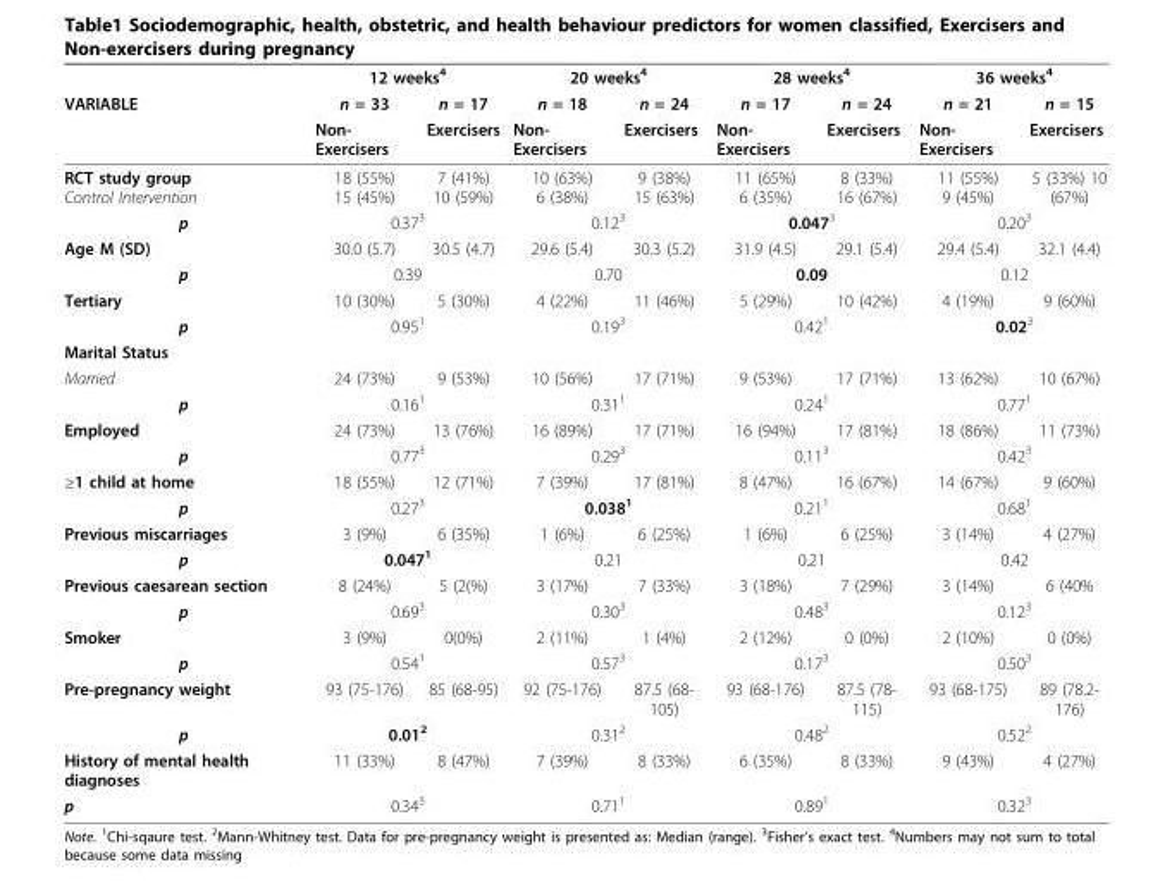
<table><thead><tr><td rowspan="3">VARIABLE</td><td colspan="2">12 weeks<sup>4</sup></td><td colspan="2">20 weeks<sup>4</sup></td><td colspan="2">28 weeks<sup>4</sup></td><td colspan="2">36 weeks<sup>4</sup></td></tr><tr><td rowspan="2">n = 33 Non- Exercisers</td><td rowspan="2">n = 17 Exercisers</td><td rowspan="2">n = 18 Non- Exercisers</td><td rowspan="2">n = 24 Exercisers</td><td rowspan="2">n = 17 Non- Exercisers</td><td rowspan="2">n = 24 Exercisers</td><td rowspan="2">n = 21 Non- Exercisers</td><td rowspan="2">n = 15 Exercisers</td></tr><tr></tr></thead><tbody><tr><td>RCT study group Control Intervention</td><td>18 (55%) 15 (45%)</td><td>7 (41%) 10 (59%)</td><td>10 (63%) 6 (38%)</td><td>9 (38%) 15 (63%)</td><td>11 (65%) 6 (35%)</td><td>8 (33%) 16 (67%)</td><td>11 (55%) 9 (45%)</td><td>5 (33%) 10 (67%)</td></tr><tr><td>p</td><td colspan="2">0.37<sup>3</sup></td><td colspan="2">0.12<sup>3</sup></td><td colspan="2">0.047<sup>3</sup></td><td colspan="2">0.20<sup>3</sup></td></tr><tr><td>Age M (SD)</td><td>30.0 (5.7)</td><td>30.5 (4.7)</td><td>29.6 (5.4)</td><td>30.3 (5.2)</td><td>31.9 (4.5)</td><td>29.1 (5.4)</td><td>29.4 (5.4)</td><td>32.1 (4.4)</td></tr><tr><td>p</td><td colspan="2">0.39</td><td colspan="2">0.70</td><td colspan="2">0.09</td><td colspan="2">0.12</td></tr><tr><td>Tertiary</td><td>10 (30%)</td><td>5 (30%)</td><td>4 (22%)</td><td>11 (46%)</td><td>5 (29%)</td><td>10 (42%)</td><td>4 (19%)</td><td>9 (60%)</td></tr><tr><td>p</td><td colspan="2">0.95<sup>1</sup></td><td colspan="2">0.19<sup>3</sup></td><td colspan="2">0.42<sup>1</sup></td><td colspan="2">0.02<sup>3</sup></td></tr><tr><td colspan="9">Marital Status</td></tr><tr><td>Married</td><td>24 (73%)</td><td>9 (53%)</td><td>10 (56%)</td><td>17 (71%)</td><td>9 (53%)</td><td>17 (71%)</td><td>13 (62%)</td><td>10 (67%)</td></tr><tr><td>p</td><td colspan="2">0.16<sup>1</sup></td><td colspan="2">0.31<sup>1</sup></td><td colspan="2">0.24<sup>1</sup></td><td colspan="2">0.77<sup>1</sup></td></tr><tr><td>Employed</td><td>24 (73%)</td><td>13 (76%)</td><td>16 (89%)</td><td>17 (71%)</td><td>16 (94%)</td><td>17 (81%)</td><td>18 (86%)</td><td>11 (73%)</td></tr><tr><td>p</td><td colspan="2">0.77<sup>3</sup></td><td colspan="2">0.29<sup>3</sup></td><td colspan="2">0.11<sup>3</sup></td><td colspan="2">0.42<sup>3</sup></td></tr><tr><td>≥1 child at home</td><td>18 (55%)</td><td>12 (71%)</td><td>7 (39%)</td><td>17 (81%)</td><td>8 (47%)</td><td>16 (67%)</td><td>14 (67%)</td><td>9 (60%)</td></tr><tr><td>p</td><td colspan="2">0.27<sup>3</sup></td><td colspan="2">0.038<sup>1</sup></td><td colspan="2">0.21<sup>1</sup></td><td colspan="2">0.68<sup>1</sup></td></tr><tr><td>Previous miscarriages</td><td>3 (9%)</td><td>6 (35%)</td><td>1 (6%)</td><td>6 (25%)</td><td>1 (6%)</td><td>6 (25%)</td><td>3 (14%)</td><td>4 (27%)</td></tr><tr><td>p</td><td colspan="2">0.047<sup>1</sup></td><td colspan="2">0.21</td><td colspan="2">0.21</td><td colspan="2">0.42</td></tr><tr><td>Previous caesarean section</td><td>8 (24%)</td><td>5 (2(%)</td><td>3 (17%)</td><td>7 (33%)</td><td>3 (18%)</td><td>7 (29%)</td><td>3 (14%)</td><td>6 (40%</td></tr><tr><td>p</td><td colspan="2">0.69<sup>3</sup></td><td colspan="2">0.30<sup>3</sup></td><td colspan="2">0.48<sup>3</sup></td><td colspan="2">0.12<sup>3</sup></td></tr><tr><td>Smoker</td><td>3 (9%)</td><td>0(0%)</td><td>2 (11%)</td><td>1 (4%)</td><td>2 (12%)</td><td>0 (0%)</td><td>2 (10%)</td><td>0 (0%)</td></tr><tr><td>p</td><td colspan="2">0.54<sup>1</sup></td><td colspan="2">0.57<sup>3</sup></td><td colspan="2">0.17<sup>3</sup></td><td colspan="2">0.50<sup>3</sup></td></tr><tr><td>Pre-pregnancy weight</td><td>93 (75-176)</td><td>85 (68-95)</td><td>92 (75-176)</td><td>87.5 (68- 105)</td><td>93 (68-176)</td><td>87.5 (78- 115)</td><td>93 (68-175)</td><td>89 (78.2- 176)</td></tr><tr><td>p</td><td colspan="2">0.01<sup>2</sup></td><td colspan="2">0.31<sup>2</sup></td><td colspan="2">0.48<sup>2</sup></td><td colspan="2">0.52<sup>2</sup></td></tr><tr><td>History of mental health diagnoses</td><td>11 (33%)</td><td>8 (47%)</td><td>7 (39%)</td><td>8 (33%)</td><td>6 (35%)</td><td>8 (33%)</td><td>9 (43%)</td><td>4 (27%)</td></tr><tr><td>p</td><td colspan="2">0.34<sup>3</sup></td><td colspan="2">0.71<sup>1</sup></td><td colspan="2">0.89<sup>1</sup></td><td colspan="2">0.32<sup>3</sup></td></tr></tbody></table>